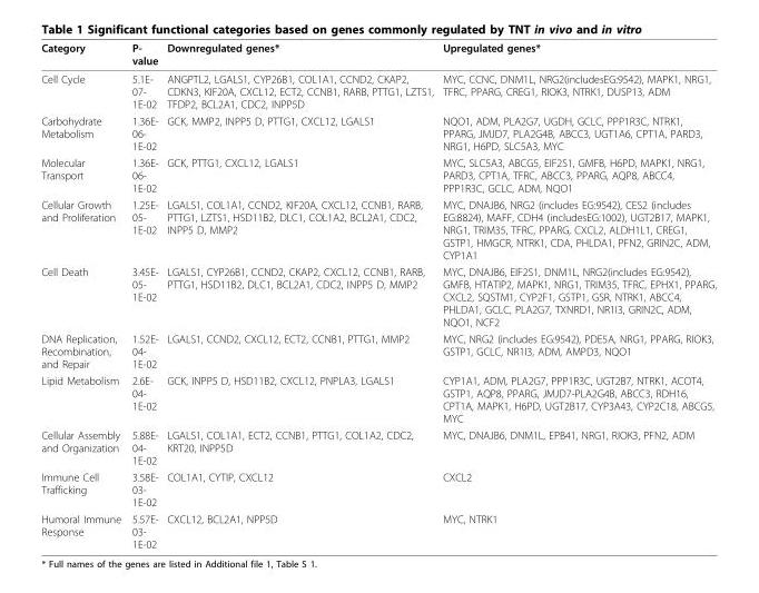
<table><thead><tr><td>Category</td><td>P- value</td><td>Downregulated genes*</td><td>Upregulated genes*</td></tr></thead><tbody><tr><td>Cell Cycle</td><td>5.1E- 07- 1E-02</td><td>ANGPTL2, LGALS1, CYP26B1, COL1A1, CCND2, CKAP2, CDKN3, KIF20A, CXCL12, ECT2, CCNB1, RARB, PTTG1, LZTS1, TFDP2, BCL2A1, CDC2, INPP5D</td><td>MYC, CCNC, DNM1L, NRG2(includesEG:9542), MAPK1, NRG1, TFRC, PPARG, CREG1, RIOK3, NTRK1, DUSP13, ADM</td></tr><tr><td>Carbohydrate Metabolism</td><td>1.36E- 06- 1E-02</td><td>GCK, MMP2, INPP5 D, PTTG1, CXCL12, LGALS1</td><td>NQO1, ADM, PLA2G7, UGDH, GCLC, PPP1R3C, NTRK1, PPARG, JMJD7, PLA2G4B, ABCC3, UGT1A6, CPT1A, PARD3, NRG1, H6PD, SLC5A3, MYC</td></tr><tr><td>Molecular Transport</td><td>1.36E- 06- 1E-02</td><td>GCK, PTTG1, CXCL12, LGALS1</td><td>MYC, SLC5A3, ABCG5, EIF2S1, GMFB, H6PD, MAPK1, NRG1, PARD3, CPT1A, TFRC, ABCC3, PPARG, AQP8, ABCC4, PPP1R3C, GCLC, ADM, NQO1</td></tr><tr><td>Cellular Growth and Proliferation</td><td>1.25E- 05- 1E-02</td><td>LGALS1, COL1A1, CCND2, KIF20A, CXCL12, CCNB1, RARB, PTTG1, LZTS1, HSD11B2, DLC1, COL1A2, BCL2A1, CDC2, INPP5 D, MMP2</td><td>MYC, DNAJB6, NRG2 (includes EG:9542), CES2 (includes EG:8824), MAFF, CDH4 (includesEG:1002), UGT2B17, MAPK1, NRG1, TRIM35, TFRC, PPARG, CXCL2, ALDH1L1, CREG1, GSTP1, HMGCR, NTRK1, CDA, PHLDA1, PFN2, GRIN2C, ADM, CYP1A1</td></tr><tr><td>Cell Death</td><td>3.45E- 05- 1E-02</td><td>LGALS1, CYP26B1, CCND2, CKAP2, CXCL12, CCNB1, RARB, PTTG1, HSD11B2, DLC1, BCL2A1, CDC2, INPP5 D, MMP2</td><td>MYC, DNAJB6, EIF2S1, DNM1L, NRG2(includes EG:9542), GMFB, HTATIP2, MAPK1, NRG1, TRIM35, TFRC, EPHX1, PPARG, CXCL2, SQSTM1, CYP2F1, GSTP1, GSR, NTRK1, ABCC4, PHLDA1, GCLC, PLA2G7, TXNRD1, NR1I3, GRIN2C, ADM, NQO1, NCF2</td></tr><tr><td>DNA Replication, Recombination, and Repair</td><td>1.52E- 04- 1E-02</td><td>LGALS1, CCND2, CXCL12, ECT2, CCNB1, PTTG1, MMP2</td><td>MYC, NRG2 (includes EG:9542), PDE5A, NRG1, PPARG, RIOK3, GSTP1, GCLC, NR1I3, ADM, AMPD3, NQO1</td></tr><tr><td>Lipid Metabolism</td><td>2.6E- 04- 1E-02</td><td>GCK, INPP5 D, HSD11B2, CXCL12, PNPLA3, LGALS1</td><td>CYP1A1, ADM, PLA2G7, PPP1R3C, UGT2B7, NTRK1, ACOT4, GSTP1, AQP8, PPARG, JMJD7-PLA2G4B, ABCC3, RDH16, CPT1A, MAPK1, H6PD, UGT2B17, CYP3A43, CYP2C18, ABCG5, MYC</td></tr><tr><td>Cellular Assembly and Organization</td><td>5.88E- 04- 1E-02</td><td>LGALS1, COL1A1, ECT2, CCNB1, PTTG1, COL1A2, CDC2, KRT20, INPP5D</td><td>MYC, DNAJB6, DNM1L, EPB41, NRG1, RIOK3, PFN2, ADM</td></tr><tr><td>Immune Cell Trafficking</td><td>3.58E- 03- 1E-02</td><td>COL1A1, CYTIP, CXCL12</td><td>CXCL2</td></tr><tr><td>Humoral Immune Response</td><td>5.57E- 03- 1E-02</td><td>CXCL12, BCL2A1, NPP5D</td><td>MYC, NTRK1</td></tr></tbody></table>